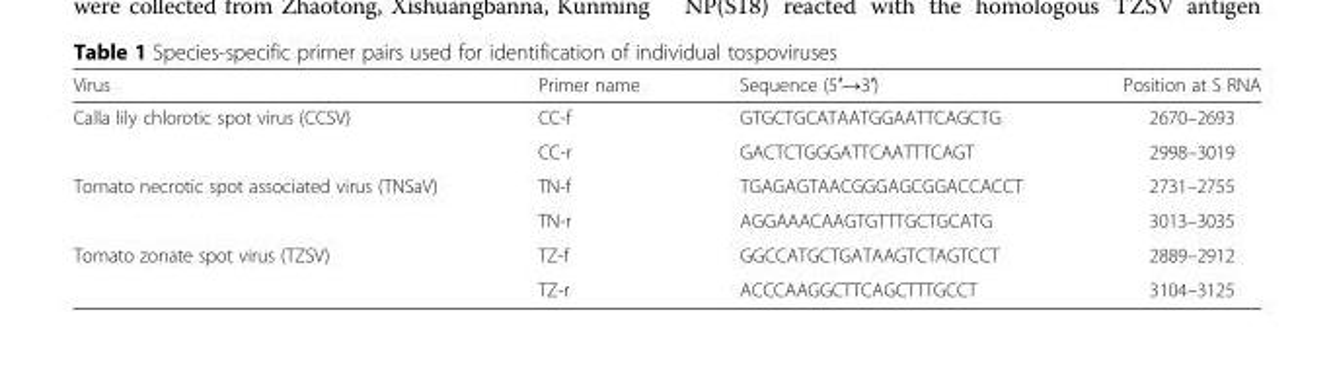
<table><thead><tr><td>Virus</td><td>Primer name</td><td>Sequence (5′→3′)</td><td>Position at S RNA</td></tr></thead><tbody><tr><td rowspan="2">Calla lily chlorotic spot virus (CCSV)</td><td>CC-f</td><td>GTGCTGCATAATGGAATTCAGCTG</td><td>2670–2693</td></tr><tr><td>CC-r</td><td>GACTCTGGGATTCAATTTCAGT</td><td>2998–3019</td></tr><tr><td rowspan="2">Tomato necrotic spot associated virus (TNSaV)</td><td>TN-f</td><td>TGAGAGTAACGGGAGCGGACCACCT</td><td>2731–2755</td></tr><tr><td>TN-r</td><td>AGGAAACAAGTGTTTGCTGCATG</td><td>3013–3035</td></tr><tr><td rowspan="2">Tomato zonate spot virus (TZSV)</td><td>TZ-f</td><td>GGCCATGCTGATAAGTCTAGTCCT</td><td>2889–2912</td></tr><tr><td>TZ-r</td><td>ACCCAAGGCTTCAGCTTTGCCT</td><td>3104–3125</td></tr></tbody></table>